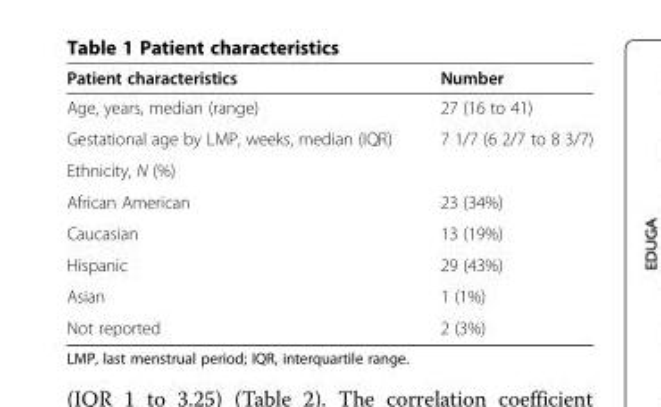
<table><thead><tr><td>Patient characteristics</td><td>Number</td></tr></thead><tbody><tr><td>Age, years, median (range)</td><td>27 (16 to 41)</td></tr><tr><td>Gestational age by LMP, weeks, median (IQR)</td><td>7 1/7 (6 2/7 to 8 3/7)</td></tr><tr><td colspan="2">Ethnicity, N (%)</td></tr><tr><td>African American</td><td>23 (34%)</td></tr><tr><td>Caucasian</td><td>13 (19%)</td></tr><tr><td>Hispanic</td><td>29 (43%)</td></tr><tr><td>Asian</td><td>1 (1%)</td></tr><tr><td>Not reported</td><td>2 (3%)</td></tr></tbody></table>